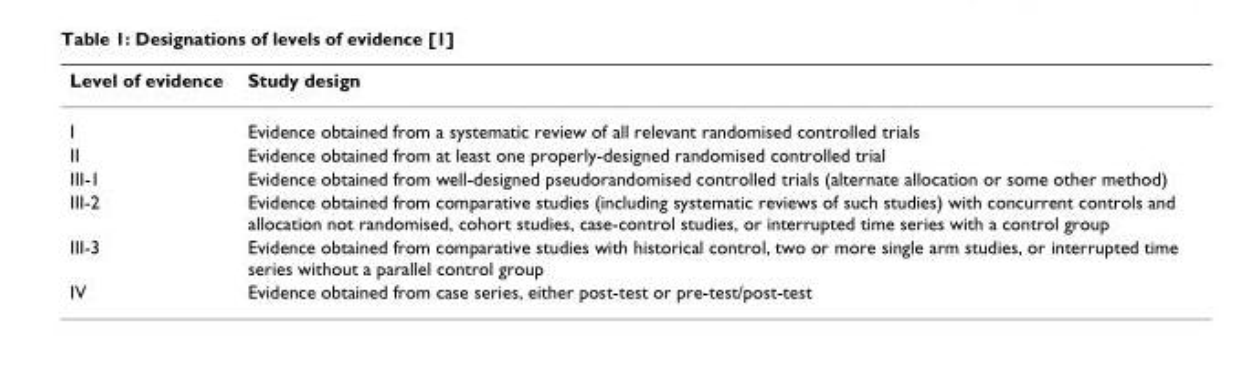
<table><thead><tr><td>Level of evidence</td><td>Study design</td></tr></thead><tbody><tr><td>I</td><td>Evidence obtained from a systematic review of all relevant randomised controlled trials</td></tr><tr><td>II</td><td>Evidence obtained from at least one properly-designed randomised controlled trial</td></tr><tr><td>III-1</td><td>Evidence obtained from well-designed pseudorandomised controlled trials (alternate allocation or some other method)</td></tr><tr><td>III-2</td><td>Evidence obtained from comparative studies (including systematic reviews of such studies) with concurrent controls and allocation not randomised, cohort studies, case-control studies, or interrupted time series with a control group</td></tr><tr><td>III-3</td><td>Evidence obtained from comparative studies with historical control, two or more single arm studies, or interrupted time series without a parallel control group</td></tr><tr><td>IV</td><td>Evidence obtained from case series, either post-test or pre-test/post-test</td></tr></tbody></table>